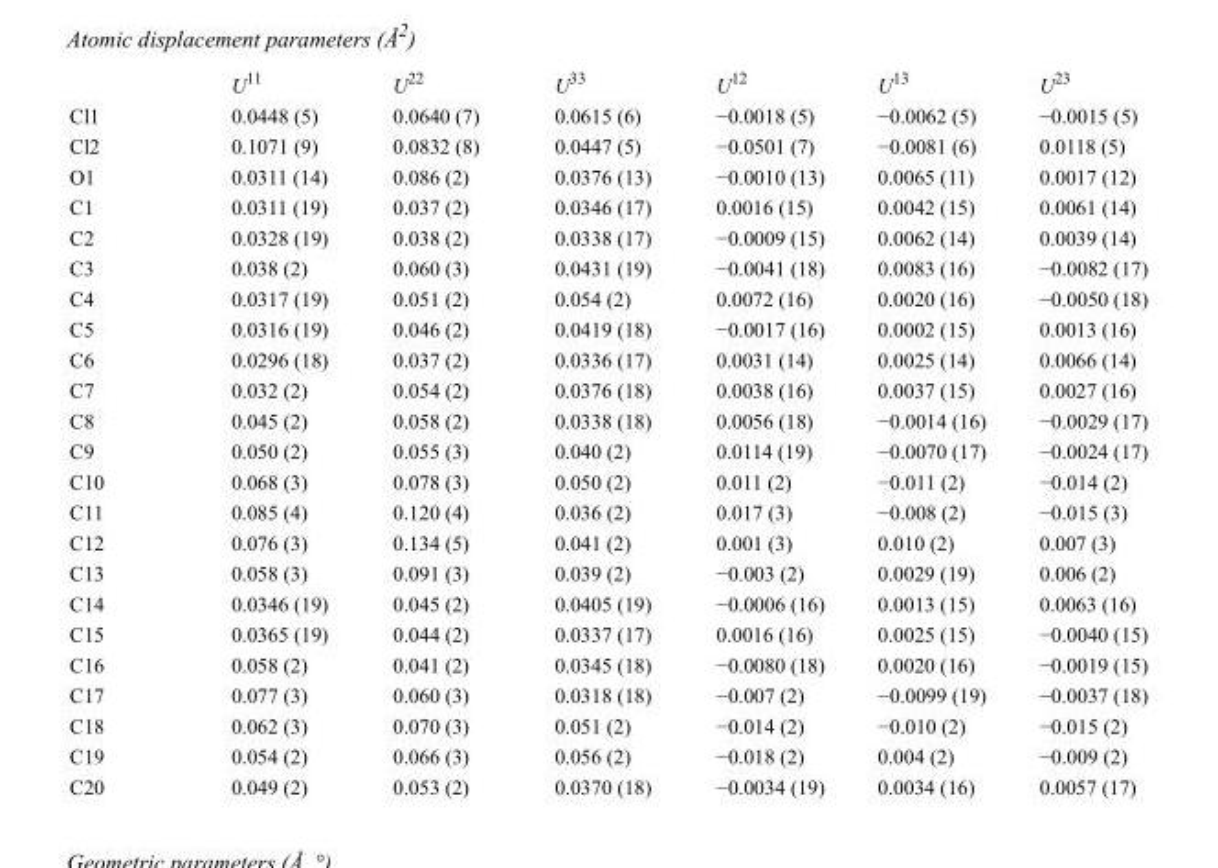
<table><thead><tr><td></td><td>U<sup>11</sup></td><td>U<sup>22</sup></td><td>U<sup>33</sup></td><td>U<sup>12</sup></td><td>U<sup>13</sup></td><td>U<sup>23</sup></td></tr></thead><tbody><tr><td>Cl1</td><td>0.0448 (5)</td><td>0.0640 (7)</td><td>0.0615 (6)</td><td>−0.0018 (5)</td><td>−0.0062 (5)</td><td>−0.0015 (5)</td></tr><tr><td>Cl2</td><td>0.1071 (9)</td><td>0.0832 (8)</td><td>0.0447 (5)</td><td>−0.0501 (7)</td><td>−0.0081 (6)</td><td>0.0118 (5)</td></tr><tr><td>O1</td><td>0.0311 (14)</td><td>0.086 (2)</td><td>0.0376 (13)</td><td>−0.0010 (13)</td><td>0.0065 (11)</td><td>0.0017 (12)</td></tr><tr><td>C1</td><td>0.0311 (19)</td><td>0.037 (2)</td><td>0.0346 (17)</td><td>0.0016 (15)</td><td>0.0042 (15)</td><td>0.0061 (14)</td></tr><tr><td>C2</td><td>0.0328 (19)</td><td>0.038 (2)</td><td>0.0338 (17)</td><td>−0.0009 (15)</td><td>0.0062 (14)</td><td>0.0039 (14)</td></tr><tr><td>C3</td><td>0.038 (2)</td><td>0.060 (3)</td><td>0.0431 (19)</td><td>−0.0041 (18)</td><td>0.0083 (16)</td><td>−0.0082 (17)</td></tr><tr><td>C4</td><td>0.0317 (19)</td><td>0.051 (2)</td><td>0.054 (2)</td><td>0.0072 (16)</td><td>0.0020 (16)</td><td>−0.0050 (18)</td></tr><tr><td>C5</td><td>0.0316 (19)</td><td>0.046 (2)</td><td>0.0419 (18)</td><td>−0.0017 (16)</td><td>0.0002 (15)</td><td>0.0013 (16)</td></tr><tr><td>C6</td><td>0.0296 (18)</td><td>0.037 (2)</td><td>0.0336 (17)</td><td>0.0031 (14)</td><td>0.0025 (14)</td><td>0.0066 (14)</td></tr><tr><td>C7</td><td>0.032 (2)</td><td>0.054 (2)</td><td>0.0376 (18)</td><td>0.0038 (16)</td><td>0.0037 (15)</td><td>0.0027 (16)</td></tr><tr><td>C8</td><td>0.045 (2)</td><td>0.058 (2)</td><td>0.0338 (18)</td><td>0.0056 (18)</td><td>−0.0014 (16)</td><td>−0.0029 (17)</td></tr><tr><td>C9</td><td>0.050 (2)</td><td>0.055 (3)</td><td>0.040 (2)</td><td>0.0114 (19)</td><td>−0.0070 (17)</td><td>−0.0024 (17)</td></tr><tr><td>C10</td><td>0.068 (3)</td><td>0.078 (3)</td><td>0.050 (2)</td><td>0.011 (2)</td><td>−0.011 (2)</td><td>−0.014 (2)</td></tr><tr><td>C11</td><td>0.085 (4)</td><td>0.120 (4)</td><td>0.036 (2)</td><td>0.017 (3)</td><td>−0.008 (2)</td><td>−0.015 (3)</td></tr><tr><td>C12</td><td>0.076 (3)</td><td>0.134 (5)</td><td>0.041 (2)</td><td>0.001 (3)</td><td>0.010 (2)</td><td>0.007 (3)</td></tr><tr><td>C13</td><td>0.058 (3)</td><td>0.091 (3)</td><td>0.039 (2)</td><td>−0.003 (2)</td><td>0.0029 (19)</td><td>0.006 (2)</td></tr><tr><td>C14</td><td>0.0346 (19)</td><td>0.045 (2)</td><td>0.0405 (19)</td><td>−0.0006 (16)</td><td>0.0013 (15)</td><td>0.0063 (16)</td></tr><tr><td>C15</td><td>0.0365 (19)</td><td>0.044 (2)</td><td>0.0337 (17)</td><td>0.0016 (16)</td><td>0.0025 (15)</td><td>−0.0040 (15)</td></tr><tr><td>C16</td><td>0.058 (2)</td><td>0.041 (2)</td><td>0.0345 (18)</td><td>−0.0080 (18)</td><td>0.0020 (16)</td><td>−0.0019 (15)</td></tr><tr><td>C17</td><td>0.077 (3)</td><td>0.060 (3)</td><td>0.0318 (18)</td><td>−0.007 (2)</td><td>−0.0099 (19)</td><td>−0.0037 (18)</td></tr><tr><td>C18</td><td>0.062 (3)</td><td>0.070 (3)</td><td>0.051 (2)</td><td>−0.014 (2)</td><td>−0.010 (2)</td><td>−0.015 (2)</td></tr><tr><td>C19</td><td>0.054 (2)</td><td>0.066 (3)</td><td>0.056 (2)</td><td>−0.018 (2)</td><td>0.004 (2)</td><td>−0.009 (2)</td></tr><tr><td>C20</td><td>0.049 (2)</td><td>0.053 (2)</td><td>0.0370 (18)</td><td>−0.0034 (19)</td><td>0.0034 (16)</td><td>0.0057 (17)</td></tr></tbody></table>